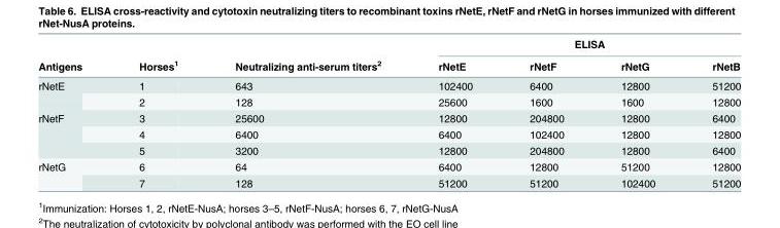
<table><thead><tr><td rowspan="2">Antigens</td><td rowspan="2">Horses<sup>1</sup></td><td rowspan="2">Neutralizing anti-serum titers<sup>2</sup></td><td colspan="4">ELISA</td></tr><tr><td>rNetE</td><td>rNetF</td><td>rNetG</td><td>rNetB</td></tr></thead><tbody><tr><td rowspan="2">rNetE</td><td>1</td><td>643</td><td>102400</td><td>6400</td><td>12800</td><td>51200</td></tr><tr><td>2</td><td>128</td><td>25600</td><td>1600</td><td>1600</td><td>12800</td></tr><tr><td rowspan="3">rNetF</td><td>3</td><td>25600</td><td>12800</td><td>204800</td><td>12800</td><td>6400</td></tr><tr><td>4</td><td>6400</td><td>6400</td><td>102400</td><td>12800</td><td>12800</td></tr><tr><td>5</td><td>3200</td><td>12800</td><td>204800</td><td>12800</td><td>6400</td></tr><tr><td rowspan="2">rNetG</td><td>6</td><td>64</td><td>6400</td><td>12800</td><td>51200</td><td>12800</td></tr><tr><td>7</td><td>128</td><td>51200</td><td>51200</td><td>102400</td><td>51200</td></tr></tbody></table>